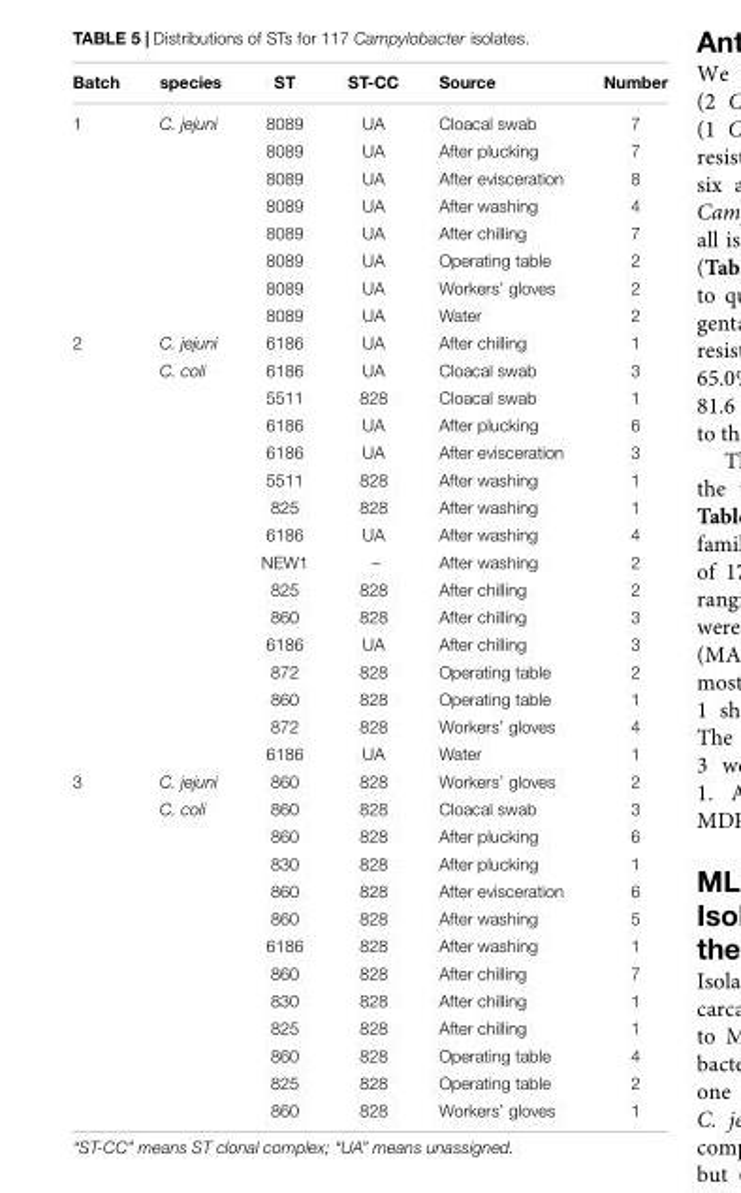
<table><thead><tr><td>Batch</td><td>species</td><td>ST</td><td>ST-CC</td><td>Source</td><td>Number</td></tr></thead><tbody><tr><td rowspan="8">1</td><td>C. jejuni</td><td>8089</td><td>UA</td><td>Cloacal swab</td><td>7</td></tr><tr><td></td><td>8089</td><td>UA</td><td>After plucking</td><td>7</td></tr><tr><td></td><td>8089</td><td>UA</td><td>After evisceration</td><td>8</td></tr><tr><td></td><td>8089</td><td>UA</td><td>After washing</td><td>4</td></tr><tr><td></td><td>8089</td><td>UA</td><td>After chilling</td><td>7</td></tr><tr><td></td><td>8089</td><td>UA</td><td>Operating table</td><td>2</td></tr><tr><td></td><td>8089</td><td>UA</td><td>Workers’ gloves</td><td>2</td></tr><tr><td></td><td>8089</td><td>UA</td><td>Water</td><td>2</td></tr><tr><td rowspan="16">2</td><td>C. jejuni</td><td>6186</td><td>UA</td><td>After chilling</td><td>1</td></tr><tr><td>C. coli</td><td>6186</td><td>UA</td><td>Cloacal swab</td><td>3</td></tr><tr><td></td><td>5511</td><td>828</td><td>Cloacal swab</td><td>1</td></tr><tr><td></td><td>6186</td><td>UA</td><td>After plucking</td><td>6</td></tr><tr><td></td><td>6186</td><td>UA</td><td>After evisceration</td><td>3</td></tr><tr><td></td><td>5511</td><td>828</td><td>After washing</td><td>1</td></tr><tr><td></td><td>825</td><td>828</td><td>After washing</td><td>1</td></tr><tr><td></td><td>6186</td><td>UA</td><td>After washing</td><td>4</td></tr><tr><td></td><td>NEW1</td><td>–</td><td>After washing</td><td>2</td></tr><tr><td></td><td>825</td><td>828</td><td>After chilling</td><td>2</td></tr><tr><td></td><td>860</td><td>828</td><td>After chilling</td><td>3</td></tr><tr><td></td><td>6186</td><td>UA</td><td>After chilling</td><td>3</td></tr><tr><td></td><td>872</td><td>828</td><td>Operating table</td><td>2</td></tr><tr><td></td><td>860</td><td>828</td><td>Operating table</td><td>1</td></tr><tr><td></td><td>872</td><td>828</td><td>Workers’ gloves</td><td>4</td></tr><tr><td></td><td>6186</td><td>UA</td><td>Water</td><td>1</td></tr><tr><td rowspan="13">3</td><td>C. jejuni</td><td>860</td><td>828</td><td>Workers’ gloves</td><td>2</td></tr><tr><td>C. coli</td><td>860</td><td>828</td><td>Cloacal swab</td><td>3</td></tr><tr><td></td><td>860</td><td>828</td><td>After plucking</td><td>6</td></tr><tr><td></td><td>830</td><td>828</td><td>After plucking</td><td>1</td></tr><tr><td></td><td>860</td><td>828</td><td>After evisceration</td><td>6</td></tr><tr><td></td><td>860</td><td>828</td><td>After washing</td><td>5</td></tr><tr><td></td><td>6186</td><td>828</td><td>After washing</td><td>1</td></tr><tr><td></td><td>860</td><td>828</td><td>After chilling</td><td>7</td></tr><tr><td></td><td>830</td><td>828</td><td>After chilling</td><td>1</td></tr><tr><td></td><td>825</td><td>828</td><td>After chilling</td><td>1</td></tr><tr><td></td><td>860</td><td>828</td><td>Operating table</td><td>4</td></tr><tr><td></td><td>825</td><td>828</td><td>Operating table</td><td>2</td></tr><tr><td></td><td>860</td><td>828</td><td>Workers’ gloves</td><td>1</td></tr></tbody></table>